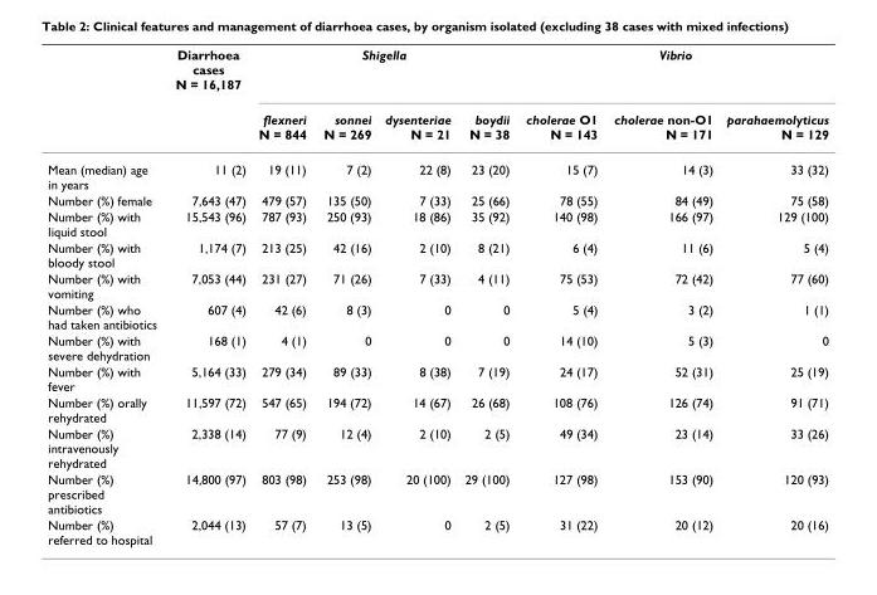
<table><thead><tr><td rowspan="2"></td><td rowspan="2">Diarrhoea cases N = 16,187</td><td colspan="4">Shigella</td><td colspan="3">Vibrio</td></tr><tr><td>flexneri N = 844</td><td>sonnei N = 269</td><td>dysenteriae N = 21</td><td>boydii N = 38</td><td>cholerae O1 N = 143</td><td>cholerae non-O1 N = 171</td><td>parahaemolyticus N = 129</td></tr></thead><tbody><tr><td>Mean (median) age in years</td><td>11 (2)</td><td>19 (11)</td><td>7 (2)</td><td>22 (8)</td><td>23 (20)</td><td>15 (7)</td><td>14 (3)</td><td>33 (32)</td></tr><tr><td>Number (%) female</td><td>7,643 (47)</td><td>479 (57)</td><td>135 (50)</td><td>7 (33)</td><td>25 (66)</td><td>78 (55)</td><td>84 (49)</td><td>75 (58)</td></tr><tr><td>Number (%) with liquid stool</td><td>15,543 (96)</td><td>787 (93)</td><td>250 (93)</td><td>18 (86)</td><td>35 (92)</td><td>140 (98)</td><td>166 (97)</td><td>129 (100)</td></tr><tr><td>Number (%) with bloody stool</td><td>1,174 (7)</td><td>213 (25)</td><td>42 (16)</td><td>2 (10)</td><td>8 (21)</td><td>6 (4)</td><td>11 (6)</td><td>5 (4)</td></tr><tr><td>Number (%) with vomiting</td><td>7,053 (44)</td><td>231 (27)</td><td>71 (26)</td><td>7 (33)</td><td>4 (11)</td><td>75 (53)</td><td>72 (42)</td><td>77 (60)</td></tr><tr><td>Number (%) who had taken antibiotics</td><td>607 (4)</td><td>42 (6)</td><td>8 (3)</td><td>0</td><td>0</td><td>5 (4)</td><td>3 (2)</td><td>1 (1)</td></tr><tr><td>Number (%) with severe dehydration</td><td>168 (1)</td><td>4 (1)</td><td>0</td><td>0</td><td>0</td><td>14 (10)</td><td>5 (3)</td><td>0</td></tr><tr><td>Number (%) with fever</td><td>5,164 (33)</td><td>279 (34)</td><td>89 (33)</td><td>8 (38)</td><td>7 (19)</td><td>24 (17)</td><td>52 (31)</td><td>25 (19)</td></tr><tr><td>Number (%) orally rehydrated</td><td>11,597 (72)</td><td>547 (65)</td><td>194 (72)</td><td>14 (67)</td><td>26 (68)</td><td>108 (76)</td><td>126 (74)</td><td>91 (71)</td></tr><tr><td>Number (%) intravenously rehydrated</td><td>2,338 (14)</td><td>77 (9)</td><td>12 (4)</td><td>2 (10)</td><td>2 (5)</td><td>49 (34)</td><td>23 (14)</td><td>33 (26)</td></tr><tr><td>Number (%) prescribed antibiotics</td><td>14,800 (97)</td><td>803 (98)</td><td>253 (98)</td><td>20 (100)</td><td>29 (100)</td><td>127 (98)</td><td>153 (90)</td><td>120 (93)</td></tr><tr><td>Number (%) referred to hospital</td><td>2,044 (13)</td><td>57 (7)</td><td>13 (5)</td><td>0</td><td>2 (5)</td><td>31 (22)</td><td>20 (12)</td><td>20 (16)</td></tr></tbody></table>